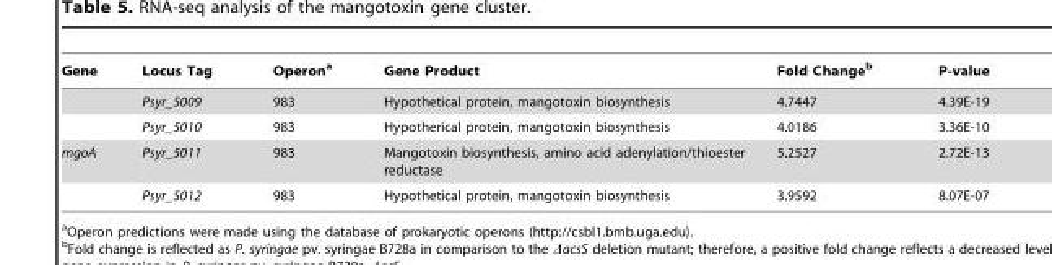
<table><thead><tr><td>Gene</td><td>Locus Tag</td><td>Operon<sup>a</sup></td><td>Gene Product</td><td>Fold Change<sup>b</sup></td><td>P-value</td></tr></thead><tbody><tr><td></td><td>Psyr_5009</td><td>983</td><td>Hypothetical protein, mangotoxin biosynthesis</td><td>4.7447</td><td>4.39E-19</td></tr><tr><td></td><td>Psyr_5010</td><td>983</td><td>Hypotherical protein, mangotoxin biosynthesis</td><td>4.0186</td><td>3.36E-10</td></tr><tr><td rowspan="2">mgoA</td><td>Psyr_5011</td><td>983</td><td>Mangotoxin biosynthesis, amino acid adenylation/thioester reductase</td><td>5.2527</td><td>2.72E-13</td></tr><tr><td>Psyr_5012</td><td>983</td><td>Hypothetical protein, mangotoxin biosynthesis</td><td>3.9592</td><td>8.07E-07</td></tr></tbody></table>